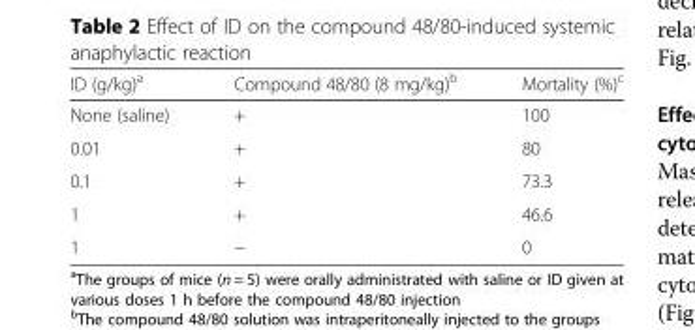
<table><thead><tr><td>ID (g/kg)<sup>a</sup></td><td>Compound 48/80 (8 mg/kg)<sup>b</sup></td><td>Mortality (%)<sup>c</sup></td></tr></thead><tbody><tr><td>None (saline)</td><td>+</td><td>100</td></tr><tr><td>0.01</td><td>+</td><td>80</td></tr><tr><td>0.1</td><td>+</td><td>73.3</td></tr><tr><td>1</td><td>+</td><td>46.6</td></tr><tr><td>1</td><td>−</td><td>0</td></tr></tbody></table>